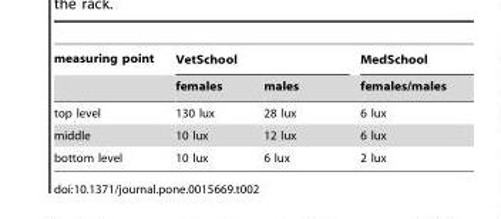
<table><thead><tr><td rowspan="2">measuring point</td><td colspan="2">VetSchool</td><td rowspan="2">MedSchool females/males</td></tr><tr><td>females</td><td>males</td></tr></thead><tbody><tr><td>top level</td><td>130 lux</td><td>28 lux</td><td>6 lux</td></tr><tr><td>middle</td><td>10 lux</td><td>12 lux</td><td>6 lux</td></tr><tr><td>bottom level</td><td>10 lux</td><td>6 lux</td><td>2 lux</td></tr></tbody></table>